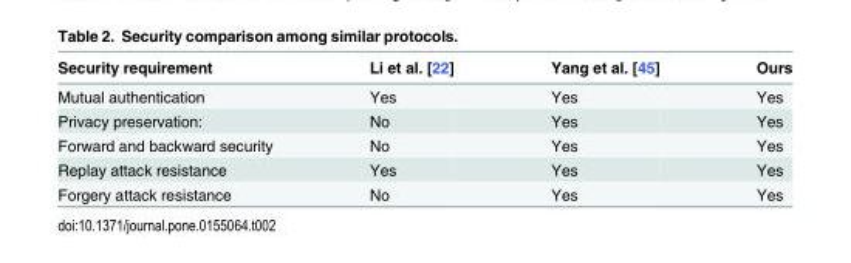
<table><thead><tr><td>Security requirement</td><td>Li et al. [22]</td><td>Yang et al. [45]</td><td>Ours</td></tr></thead><tbody><tr><td>Mutual authentication</td><td>Yes</td><td>Yes</td><td>Yes</td></tr><tr><td>Privacy preservation:</td><td>No</td><td>Yes</td><td>Yes</td></tr><tr><td>Forward and backward security</td><td>No</td><td>Yes</td><td>Yes</td></tr><tr><td>Replay attack resistance</td><td>Yes</td><td>Yes</td><td>Yes</td></tr><tr><td>Forgery attack resistance</td><td>No</td><td>Yes</td><td>Yes</td></tr></tbody></table>